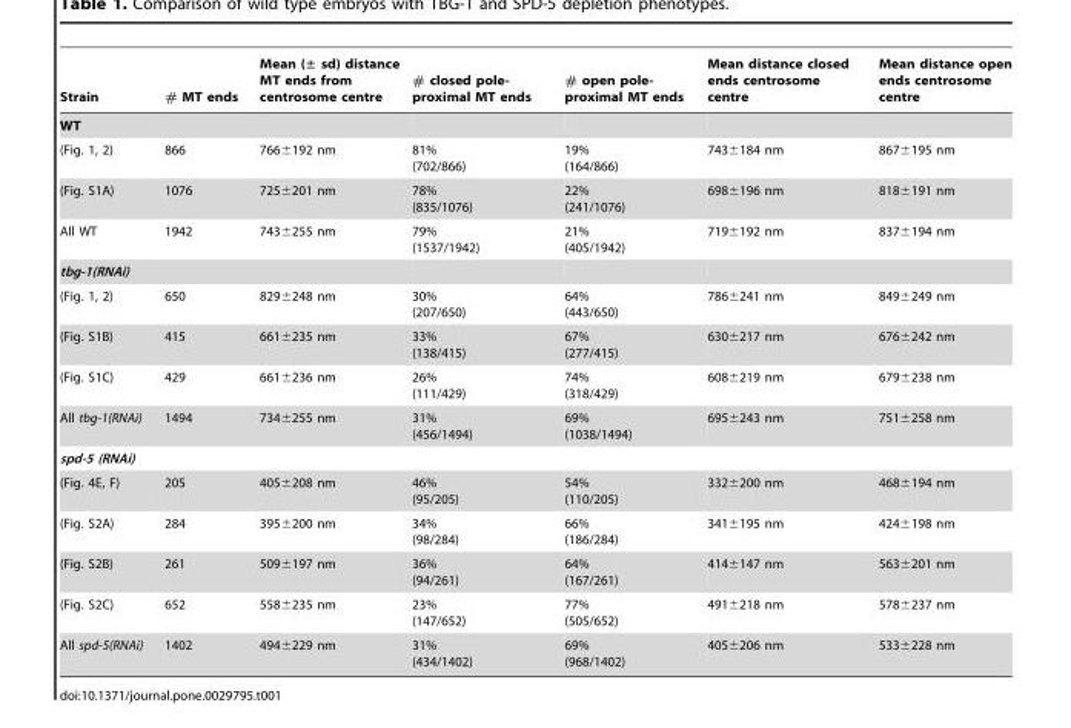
<table><thead><tr><td>Strain</td><td># MT ends</td><td>Mean (± sd) distance MT ends from centrosome centre</td><td># closed pole- proximal MT ends</td><td># open pole- proximal MT ends</td><td>Mean distance closed ends centrosome centre</td><td>Mean distance open ends centrosome centre</td></tr></thead><tbody><tr><td colspan="7">WT</td></tr><tr><td>(Fig. 1, 2)</td><td>866</td><td>766±192 nm</td><td>81% (702/866)</td><td>19% (164/866)</td><td>743±184 nm</td><td>867±195 nm</td></tr><tr><td>(Fig. S1A)</td><td>1076</td><td>725±201 nm</td><td>78% (835/1076)</td><td>22% (241/1076)</td><td>698±196 nm</td><td>818±191 nm</td></tr><tr><td>All WT</td><td>1942</td><td>743±255 nm</td><td>79% (1537/1942)</td><td>21% (405/1942)</td><td>719±192 nm</td><td>837±194 nm</td></tr><tr><td colspan="7">tbg-1(RNAi)</td></tr><tr><td>(Fig. 1, 2)</td><td>650</td><td>829±248 nm</td><td>30% (207/650)</td><td>64% (443/650)</td><td>786±241 nm</td><td>849±249 nm</td></tr><tr><td>(Fig. S1B)</td><td>415</td><td>661±235 nm</td><td>33% (138/415)</td><td>67% (277/415)</td><td>630±217 nm</td><td>676±242 nm</td></tr><tr><td>(Fig. S1C)</td><td>429</td><td>661±236 nm</td><td>26% (111/429)</td><td>74% (318/429)</td><td>608±219 nm</td><td>679±238 nm</td></tr><tr><td>All tbg-1(RNAi)</td><td>1494</td><td>734±255 nm</td><td>31% (456/1494)</td><td>69% (1038/1494)</td><td>695±243 nm</td><td>751±258 nm</td></tr><tr><td colspan="7">spd-5 (RNAi)</td></tr><tr><td>(Fig. 4E, F)</td><td>205</td><td>405±208 nm</td><td>46% (95/205)</td><td>54% (110/205)</td><td>332±200 nm</td><td>468±194 nm</td></tr><tr><td>(Fig. S2A)</td><td>284</td><td>395±200 nm</td><td>34% (98/284)</td><td>66% (186/284)</td><td>341±195 nm</td><td>424±198 nm</td></tr><tr><td>(Fig. S2B)</td><td>261</td><td>509±197 nm</td><td>36% (94/261)</td><td>64% (167/261)</td><td>414±147 nm</td><td>563±201 nm</td></tr><tr><td>(Fig. S2C)</td><td>652</td><td>558±235 nm</td><td>23% (147/652)</td><td>77% (505/652)</td><td>491±218 nm</td><td>578±237 nm</td></tr><tr><td>All spd-5(RNAi)</td><td>1402</td><td>494±229 nm</td><td>31% (434/1402)</td><td>69% (968/1402)</td><td>405±206 nm</td><td>533±228 nm</td></tr></tbody></table>